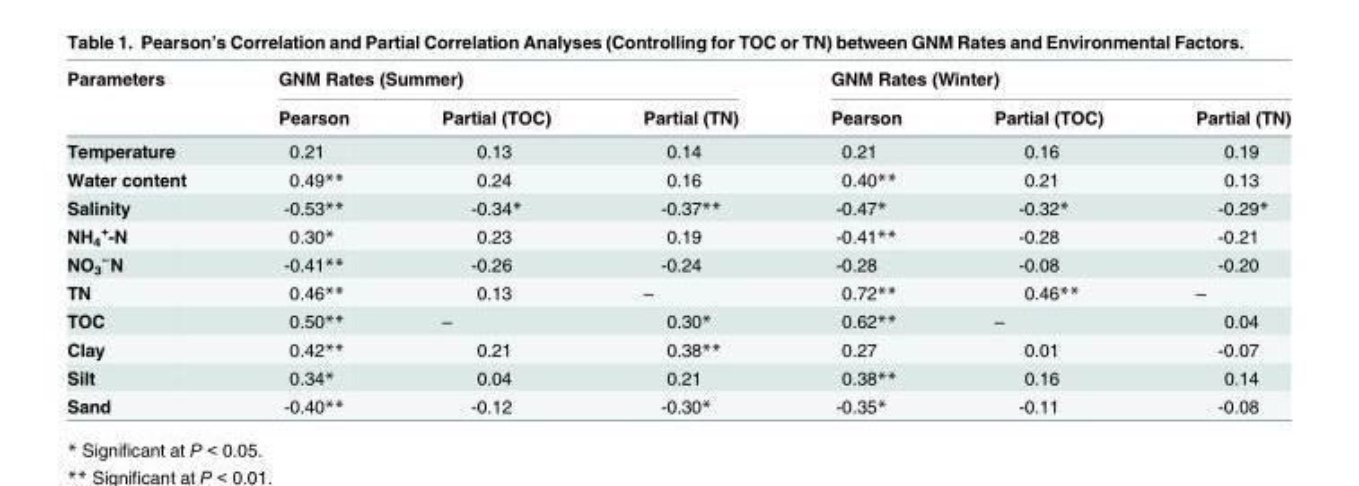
<table><thead><tr><td rowspan="2">Parameters</td><td colspan="3">GNM Rates (Summer)</td><td colspan="3">GNM Rates (Winter)</td></tr><tr><td>Pearson</td><td>Partial (TOC)</td><td>Partial (TN)</td><td>Pearson</td><td>Partial (TOC)</td><td>Partial (TN)</td></tr></thead><tbody><tr><td>Temperature</td><td>0.21</td><td>0.13</td><td>0.14</td><td>0.21</td><td>0.16</td><td>0.19</td></tr><tr><td>Water content</td><td>0.49**</td><td>0.24</td><td>0.16</td><td>0.40**</td><td>0.21</td><td>0.13</td></tr><tr><td>Salinity</td><td>-0.53**</td><td>-0.34*</td><td>-0.37**</td><td>-0.47*</td><td>-0.32*</td><td>-0.29*</td></tr><tr><td>NH<sub>4</sub> <sup>+</sup>-N</td><td>0.30*</td><td>0.23</td><td>0.19</td><td>-0.41**</td><td>-0.28</td><td>-0.21</td></tr><tr><td>NO<sub>3</sub> <sup>--</sup>N</td><td>-0.41**</td><td>-0.26</td><td>-0.24</td><td>-0.28</td><td>-0.08</td><td>-0.20</td></tr><tr><td>TN</td><td>0.46**</td><td>0.13</td><td>–</td><td>0.72**</td><td>0.46**</td><td>–</td></tr><tr><td>TOC</td><td>0.50**</td><td>–</td><td>0.30*</td><td>0.62**</td><td>–</td><td>0.04</td></tr><tr><td>Clay</td><td>0.42**</td><td>0.21</td><td>0.38**</td><td>0.27</td><td>0.01</td><td>-0.07</td></tr><tr><td>Silt</td><td>0.34*</td><td>0.04</td><td>0.21</td><td>0.38**</td><td>0.16</td><td>0.14</td></tr><tr><td>Sand</td><td>-0.40**</td><td>-0.12</td><td>-0.30*</td><td>-0.35*</td><td>-0.11</td><td>-0.08</td></tr></tbody></table>